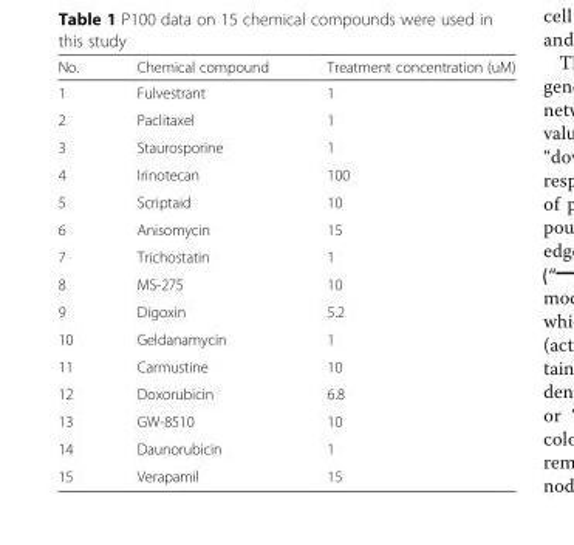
<table><thead><tr><td>No.</td><td>Chemical compound</td><td>Treatment concentration (uM)</td></tr></thead><tbody><tr><td>1</td><td>Fulvestrant</td><td>1</td></tr><tr><td>2</td><td>Paclitaxel</td><td>1</td></tr><tr><td>3</td><td>Staurosporine</td><td>1</td></tr><tr><td>4</td><td>Irinotecan</td><td>100</td></tr><tr><td>5</td><td>Scriptaid</td><td>10</td></tr><tr><td>6</td><td>Anisomycin</td><td>15</td></tr><tr><td>7</td><td>Trichostatin</td><td>1</td></tr><tr><td>8</td><td>MS-275</td><td>10</td></tr><tr><td>9</td><td>Digoxin</td><td>5.2</td></tr><tr><td>10</td><td>Geldanamycin</td><td>1</td></tr><tr><td>11</td><td>Carmustine</td><td>10</td></tr><tr><td>12</td><td>Doxorubicin</td><td>6.8</td></tr><tr><td>13</td><td>GW-8510</td><td>10</td></tr><tr><td>14</td><td>Daunorubicin</td><td>1</td></tr><tr><td>15</td><td>Verapamil</td><td>15</td></tr></tbody></table>